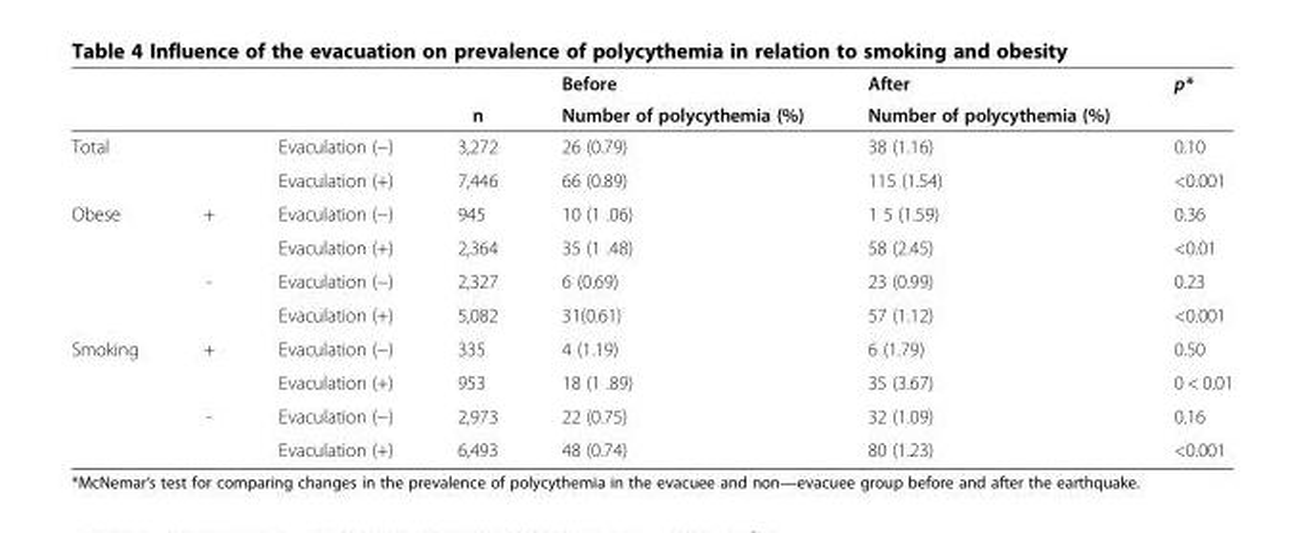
<table><thead><tr><td rowspan="2"></td><td rowspan="2"></td><td rowspan="2"></td><td rowspan="2">n</td><td rowspan="2">Before Number of polycythemia (%)</td><td rowspan="2">After Number of polycythemia (%)</td><td rowspan="2">p*</td></tr><tr></tr></thead><tbody><tr><td rowspan="2">Total</td><td></td><td>Evaculation (−)</td><td>3,272</td><td>26 (0.79)</td><td>38 (1.16)</td><td>0.10</td></tr><tr><td></td><td>Evaculation (+)</td><td>7,446</td><td>66 (0.89)</td><td>115 (1.54)</td><td>&lt;0.001</td></tr><tr><td rowspan="4">Obese</td><td rowspan="2">+</td><td>Evaculation (−)</td><td>945</td><td>10 (1 .06)</td><td>1 5 (1.59)</td><td>0.36</td></tr><tr><td>Evaculation (+)</td><td>2,364</td><td>35 (1 .48)</td><td>58 (2.45)</td><td>&lt;0.01</td></tr><tr><td rowspan="2">-</td><td>Evaculation (−)</td><td>2,327</td><td>6 (0.69)</td><td>23 (0.99)</td><td>0.23</td></tr><tr><td>Evaculation (+)</td><td>5,082</td><td>31(0.61)</td><td>57 (1.12)</td><td>&lt;0.001</td></tr><tr><td rowspan="4">Smoking</td><td rowspan="2">+</td><td>Evaculation (−)</td><td>335</td><td>4 (1.19)</td><td>6 (1.79)</td><td>0.50</td></tr><tr><td>Evaculation (+)</td><td>953</td><td>18 (1 .89)</td><td>35 (3.67)</td><td>0 &lt; 0.01</td></tr><tr><td rowspan="2">-</td><td>Evaculation (−)</td><td>2,973</td><td>22 (0.75)</td><td>32 (1.09)</td><td>0.16</td></tr><tr><td>Evaculation (+)</td><td>6,493</td><td>48 (0.74)</td><td>80 (1.23)</td><td>&lt;0.001</td></tr></tbody></table>